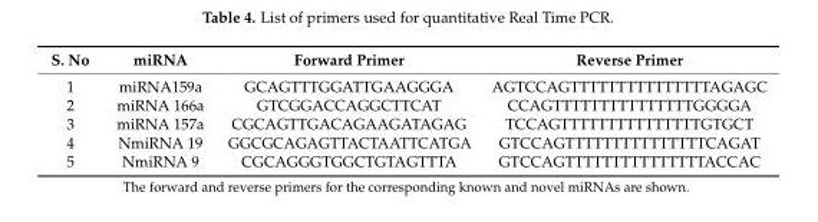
<table><thead><tr><td>S. No</td><td>miRNA</td><td>Forward Primer</td><td>Reverse Primer</td></tr></thead><tbody><tr><td>1</td><td>miRNA159a</td><td>GCAGTTTGGATTGAAGGGA</td><td>AGTCCAGTTTTTTTTTTTTTTTAGAGC</td></tr><tr><td>2</td><td>miRNA 166a</td><td>GTCGGACCAGGCTTCAT</td><td>CCAGTTTTTTTTTTTTTTTGGGGA</td></tr><tr><td>3</td><td>miRNA 157a</td><td>CGCAGTTGACAGAAGATAGAG</td><td>TCCAGTTTTTTTTTTTTTTTGTGCT</td></tr><tr><td>4</td><td>NmiRNA 19</td><td>GGCGCAGAGTTACTAATTCATGA</td><td>GTCCAGTTTTTTTTTTTTTTTCAGAT</td></tr><tr><td>5</td><td>NmiRNA 9</td><td>CGCAGGGTGGCTGTAGTTTA</td><td>GTCCAGTTTTTTTTTTTTTTTACCAC</td></tr></tbody></table>